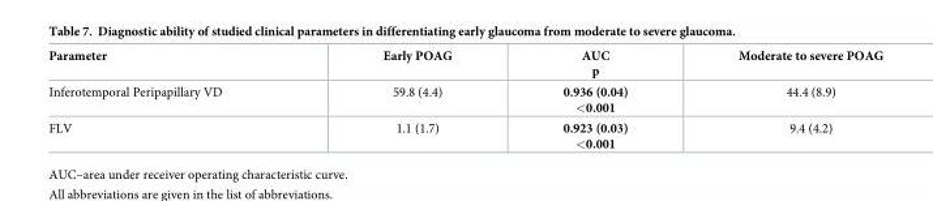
<table><thead><tr><td>Parameter</td><td>Early POAG</td><td>AUC p</td><td>Moderate to severe POAG</td></tr></thead><tbody><tr><td>Inferotemporal Peripapillary VD</td><td>59.8 (4.4)</td><td>0.936 (0.04) &lt;0.001</td><td>44.4 (8.9)</td></tr><tr><td>FLV</td><td>1.1 (1.7)</td><td>0.923 (0.03) &lt;0.001</td><td>9.4 (4.2)</td></tr></tbody></table>